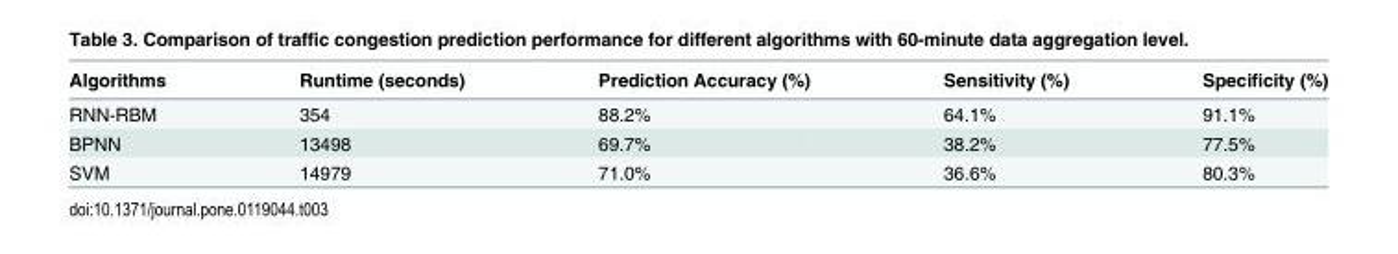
<table><thead><tr><td>Algorithms</td><td>Runtime (seconds)</td><td>Prediction Accuracy (%)</td><td>Sensitivity (%)</td><td>Specificity (%)</td></tr></thead><tbody><tr><td>RNN-RBM</td><td>354</td><td>88.2%</td><td>64.1%</td><td>91.1%</td></tr><tr><td>BPNN</td><td>13498</td><td>69.7%</td><td>38.2%</td><td>77.5%</td></tr><tr><td>SVM</td><td>14979</td><td>71.0%</td><td>36.6%</td><td>80.3%</td></tr></tbody></table>